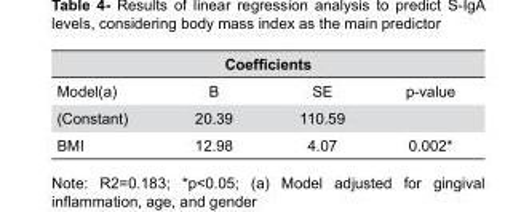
<table><thead><tr><td colspan="4">Coefficients</td></tr><tr><td>Model(a)</td><td>B</td><td>SE</td><td>p-value</td></tr></thead><tbody><tr><td>(Constant)</td><td>20.39</td><td>110.59</td><td></td></tr><tr><td>BMI</td><td>12.98</td><td>4.07</td><td>0.002*</td></tr></tbody></table>